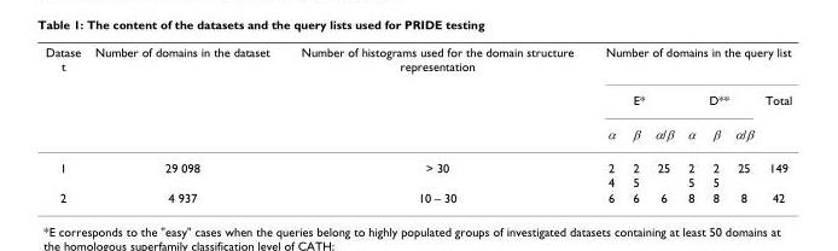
<table><thead><tr><td rowspan="3">Datase t</td><td rowspan="3">Number of domains in the dataset</td><td rowspan="3">Number of histograms used for the domain structure representation</td><td colspan="7">Number of domains in the query list</td></tr><tr><td colspan="3">E*</td><td colspan="3">D**</td><td rowspan="2">Total</td></tr><tr><td>α</td><td>β</td><td>α/β</td><td>α</td><td>β</td><td>α/β</td></tr></thead><tbody><tr><td>1</td><td>29 098</td><td>&gt; 30</td><td>2 4</td><td>2 5</td><td>25</td><td>2 5</td><td>2 5</td><td>25</td><td>149</td></tr><tr><td>2</td><td>4 937</td><td>10 – 30</td><td>6</td><td>6</td><td>6</td><td>8</td><td>8</td><td>8</td><td>42</td></tr></tbody></table>